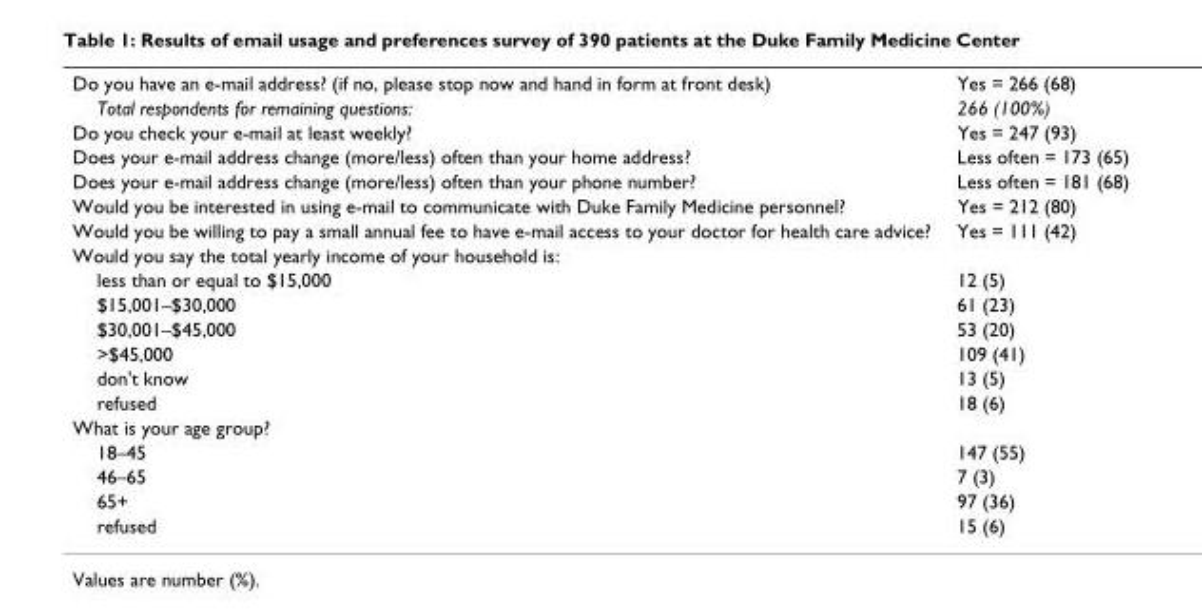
<table><tbody><tr><td>Do you have an e-mail address? (if no, please stop now and hand in form at front desk)</td><td>Yes = 266 (68)</td></tr><tr><td>Total respondents for remaining questions:</td><td>266 (100%)</td></tr><tr><td>Do you check your e-mail at least weekly?</td><td>Yes = 247 (93)</td></tr><tr><td>Does your e-mail address change (more/less) often than your home address?</td><td>Less often = 173 (65)</td></tr><tr><td>Does your e-mail address change (more/less) often than your phone number?</td><td>Less often = 181 (68)</td></tr><tr><td>Would you be interested in using e-mail to communicate with Duke Family Medicine personnel?</td><td>Yes = 212 (80)</td></tr><tr><td>Would you be willing to pay a small annual fee to have e-mail access to your doctor for health care advice?</td><td>Yes = 111 (42)</td></tr><tr><td colspan="2">Would you say the total yearly income of your household is:</td></tr><tr><td>less than or equal to $15,000</td><td>12 (5)</td></tr><tr><td>$15,001–$30,000</td><td>61 (23)</td></tr><tr><td>$30,001–$45,000</td><td>53 (20)</td></tr><tr><td>&gt;$45,000</td><td>109 (41)</td></tr><tr><td>don&#x27;t know</td><td>13 (5)</td></tr><tr><td>refused</td><td>18 (6)</td></tr><tr><td colspan="2">What is your age group?</td></tr><tr><td>18–45</td><td>147 (55)</td></tr><tr><td>46–65</td><td>7 (3)</td></tr><tr><td>65+</td><td>97 (36)</td></tr><tr><td>refused</td><td>15 (6)</td></tr></tbody></table>